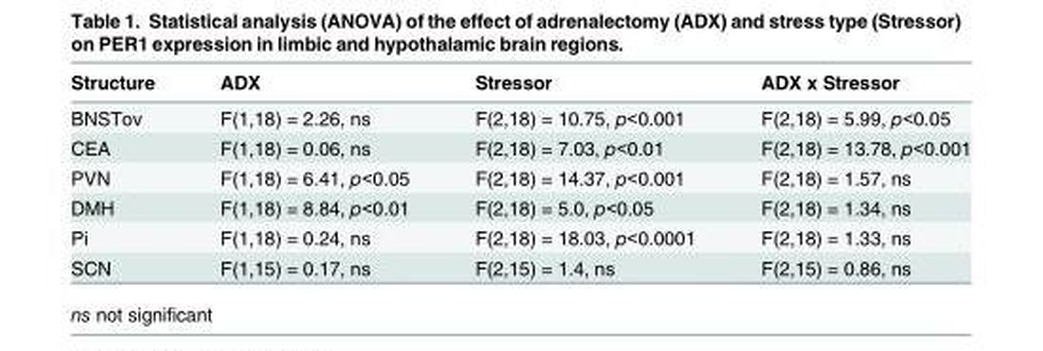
<table><thead><tr><td>Structure</td><td>ADX</td><td>Stressor</td><td>ADX x Stressor</td></tr></thead><tbody><tr><td>BNSTov</td><td>F(1,18) = 2.26, ns</td><td>F(2,18) = 10.75, p&lt;0.001</td><td>F(2,18) = 5.99, p&lt;0.05</td></tr><tr><td>CEA</td><td>F(1,18) = 0.06, ns</td><td>F(2,18) = 7.03, p&lt;0.01</td><td>F(2,18) = 13.78, p&lt;0.001</td></tr><tr><td>PVN</td><td>F(1,18) = 6.41, p&lt;0.05</td><td>F(2,18) = 14.37, p&lt;0.001</td><td>F(2,18) = 1.57, ns</td></tr><tr><td>DMH</td><td>F(1,18) = 8.84, p&lt;0.01</td><td>F(2,18) = 5.0, p&lt;0.05</td><td>F(2,18) = 1.34, ns</td></tr><tr><td>Pi</td><td>F(1,18) = 0.24, ns</td><td>F(2,18) = 18.03, p&lt;0.0001</td><td>F(2,18) = 1.33, ns</td></tr><tr><td>SCN</td><td>F(1,15) = 0.17, ns</td><td>F(2,15) = 1.4, ns</td><td>F(2,15) = 0.86, ns</td></tr></tbody></table>